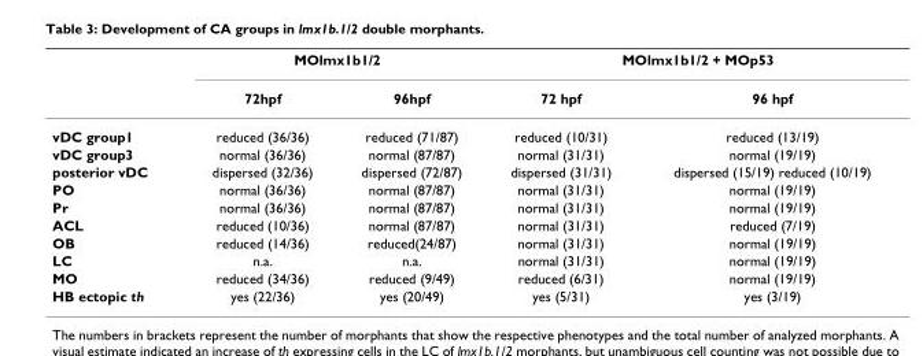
<table><thead><tr><td rowspan="2"></td><td colspan="2">MOlmx1b1/2</td><td colspan="2">MOlmx1b1/2 + MOp53</td></tr><tr><td>72hpf</td><td>96hpf</td><td>72 hpf</td><td>96 hpf</td></tr></thead><tbody><tr><td>vDC group1</td><td>reduced (36/36)</td><td>reduced (71/87)</td><td>reduced (10/31)</td><td>reduced (13/19)</td></tr><tr><td>vDC group3</td><td>normal (36/36)</td><td>normal (87/87)</td><td>normal (31/31)</td><td>normal (19/19)</td></tr><tr><td>posterior vDC</td><td>dispersed (32/36)</td><td>dispersed (72/87)</td><td>dispersed (31/31)</td><td>dispersed (15/19) reduced (10/19)</td></tr><tr><td>PO</td><td>normal (36/36)</td><td>normal (87/87)</td><td>normal (31/31)</td><td>normal (19/19)</td></tr><tr><td>Pr</td><td>normal (36/36)</td><td>normal (87/87)</td><td>normal (31/31)</td><td>normal (19/19)</td></tr><tr><td>ACL</td><td>reduced (10/36)</td><td>normal (87/87)</td><td>normal (31/31)</td><td>reduced (7/19)</td></tr><tr><td>OB</td><td>reduced (14/36)</td><td>reduced(24/87)</td><td>normal (31/31)</td><td>normal (19/19)</td></tr><tr><td>LC</td><td>n.a.</td><td>n.a.</td><td>normal (31/31)</td><td>normal (19/19)</td></tr><tr><td>MO</td><td>reduced (34/36)</td><td>reduced (9/49)</td><td>reduced (6/31)</td><td>normal (19/19)</td></tr><tr><td>HB ectopic th</td><td>yes (22/36)</td><td>yes (20/49)</td><td>yes (5/31)</td><td>yes (3/19)</td></tr></tbody></table>